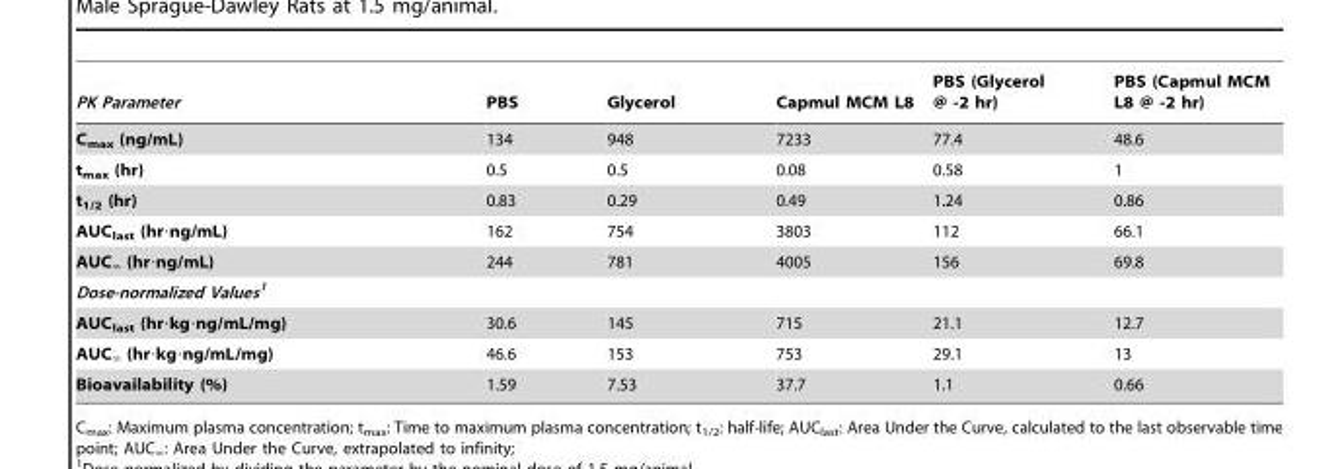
<table><thead><tr><td>PK Parameter</td><td>PBS</td><td>Glycerol</td><td>Capmul MCM L8</td><td>PBS (Glycerol @ -2 hr)</td><td>PBS (Capmul MCM L8 @ -2 hr)</td></tr></thead><tbody><tr><td>C<sub>max</sub> (ng/mL)</td><td>134</td><td>948</td><td>7233</td><td>77.4</td><td>48.6</td></tr><tr><td>t<sub>max</sub> (hr)</td><td>0.5</td><td>0.5</td><td>0.08</td><td>0.58</td><td>1</td></tr><tr><td>t<sub>1/2</sub> (hr)</td><td>0.83</td><td>0.29</td><td>0.49</td><td>1.24</td><td>0.86</td></tr><tr><td>AUC<sub>last</sub> (hr·ng/mL)</td><td>162</td><td>754</td><td>3803</td><td>112</td><td>66.1</td></tr><tr><td>AUC‘ (hr?ng/mL)</td><td>244</td><td>781</td><td>4005</td><td>156</td><td>69.8</td></tr><tr><td colspan="6">Dose-normalized Values1</td></tr><tr><td>AUC<sub>last</sub> (hr·kg·ng/mL/mg)</td><td>30.6</td><td>145</td><td>715</td><td>21.1</td><td>12.7</td></tr><tr><td>AUC‘ (hr?kg?ng/mL/mg)</td><td>46.6</td><td>153</td><td>753</td><td>29.1</td><td>13</td></tr><tr><td>Bioavailability (%)</td><td>1.59</td><td>7.53</td><td>37.7</td><td>1.1</td><td>0.66</td></tr></tbody></table>